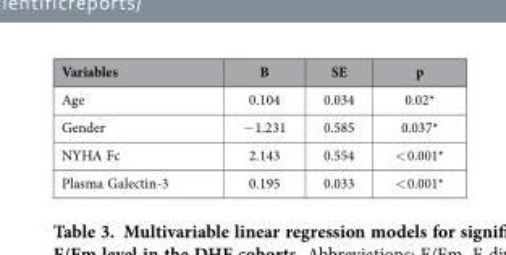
<table><thead><tr><td>Variables</td><td>B</td><td>SE</td><td>p</td></tr></thead><tbody><tr><td>Age</td><td>0.104</td><td>0.034</td><td>0.02*</td></tr><tr><td>Gender</td><td>− 1.231</td><td>0.585</td><td>0.037*</td></tr><tr><td>NYHA Fc</td><td>2.143</td><td>0.554</td><td>&lt; 0.001*</td></tr><tr><td>Plasma Galectin-3</td><td>0.195</td><td>0.033</td><td>&lt; 0.001*</td></tr></tbody></table>